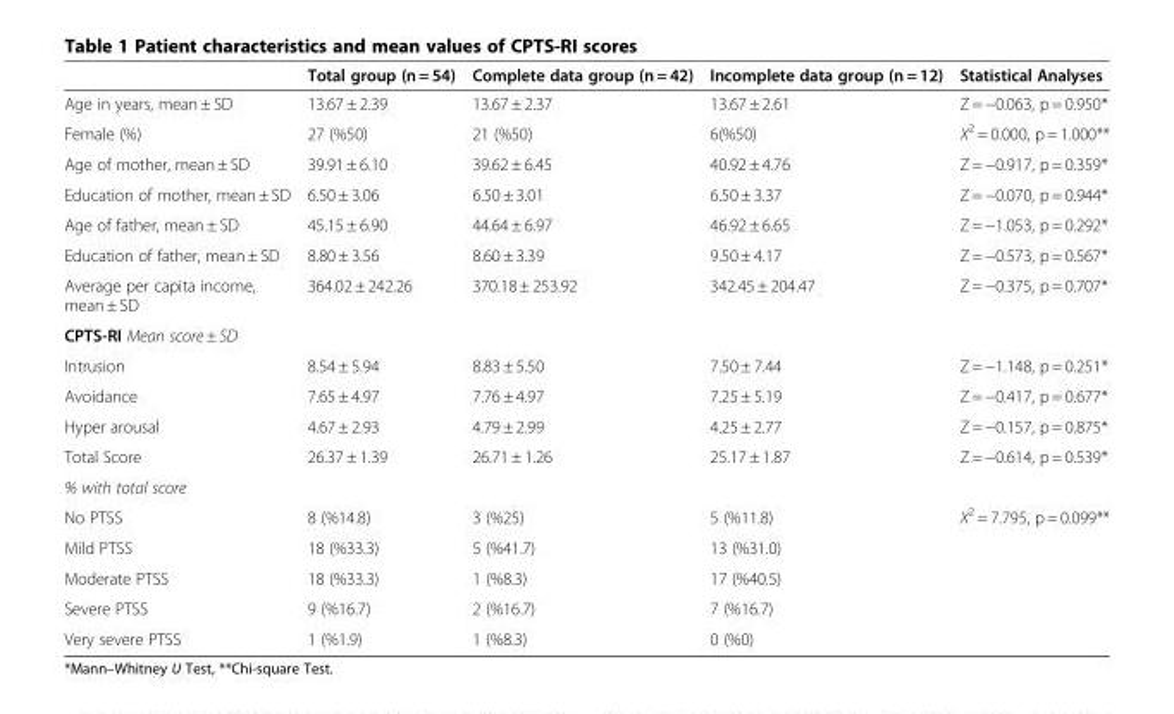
<table><thead><tr><td></td><td>Total group (n = 54)</td><td>Complete data group (n = 42)</td><td>Incomplete data group (n = 12)</td><td>Statistical Analyses</td></tr></thead><tbody><tr><td>Age in years, mean ± SD</td><td>13.67 ± 2.39</td><td>13.67 ± 2.37</td><td>13.67 ± 2.61</td><td>Z = −0.063, p = 0.950*</td></tr><tr><td>Female (%)</td><td>27 (%50)</td><td>21 (%50)</td><td>6(%50)</td><td>X<sup>2</sup> = 0.000, p = 1.000**</td></tr><tr><td>Age of mother, mean ± SD</td><td>39.91 ± 6.10</td><td>39.62 ± 6.45</td><td>40.92 ± 4.76</td><td>Z = −0.917, p = 0.359*</td></tr><tr><td>Education of mother, mean ± SD</td><td>6.50 ± 3.06</td><td>6.50 ± 3.01</td><td>6.50 ± 3.37</td><td>Z = −0.070, p = 0.944*</td></tr><tr><td>Age of father, mean ± SD</td><td>45.15 ± 6.90</td><td>44.64 ± 6.97</td><td>46.92 ± 6.65</td><td>Z = −1.053, p = 0.292*</td></tr><tr><td>Education of father, mean ± SD</td><td>8.80 ± 3.56</td><td>8.60 ± 3.39</td><td>9.50 ± 4.17</td><td>Z = −0.573, p = 0.567*</td></tr><tr><td>Average per capita income, mean ± SD</td><td>364.02 ± 242.26</td><td>370.18 ± 253.92</td><td>342.45 ± 204.47</td><td>Z = −0.375, p = 0.707*</td></tr><tr><td colspan="5">CPTS-RI Mean score ± SD</td></tr><tr><td>Intrusion</td><td>8.54 ± 5.94</td><td>8.83 ± 5.50</td><td>7.50 ± 7.44</td><td>Z = −1.148, p = 0.251*</td></tr><tr><td>Avoidance</td><td>7.65 ± 4.97</td><td>7.76 ± 4.97</td><td>7.25 ± 5.19</td><td>Z = −0.417, p = 0.677*</td></tr><tr><td>Hyper arousal</td><td>4.67 ± 2.93</td><td>4.79 ± 2.99</td><td>4.25 ± 2.77</td><td>Z = −0.157, p = 0.875*</td></tr><tr><td>Total Score</td><td>26.37 ± 1.39</td><td>26.71 ± 1.26</td><td>25.17 ± 1.87</td><td>Z = −0.614, p = 0.539*</td></tr><tr><td colspan="5">% with total score</td></tr><tr><td>No PTSS</td><td>8 (%14.8)</td><td>3 (%25)</td><td>5 (%11.8)</td><td>X<sup>2</sup> = 7.795, p = 0.099**</td></tr><tr><td>Mild PTSS</td><td>18 (%33.3)</td><td>5 (%41.7)</td><td>13 (%31.0)</td><td></td></tr><tr><td>Moderate PTSS</td><td>18 (%33.3)</td><td>1 (%8.3)</td><td>17 (%40.5)</td><td></td></tr><tr><td>Severe PTSS</td><td>9 (%16.7)</td><td>2 (%16.7)</td><td>7 (%16.7)</td><td></td></tr><tr><td>Very severe PTSS</td><td>1 (%1.9)</td><td>1 (%8.3)</td><td>0 (%0)</td><td></td></tr></tbody></table>